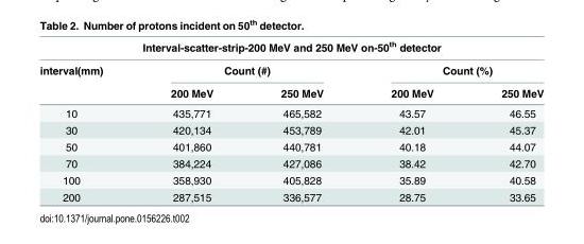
<table><thead><tr><td colspan="5">Interval-scatter-strip-200 MeV and 250 MeV on-50<sup>th</sup> detector</td></tr><tr><td rowspan="2">interval(mm)</td><td colspan="2">Count (#)</td><td colspan="2">Count (%)</td></tr><tr><td>200 MeV</td><td>250 MeV</td><td>200 MeV</td><td>250 MeV</td></tr></thead><tbody><tr><td>10</td><td>435,771</td><td>465,582</td><td>43.57</td><td>46.55</td></tr><tr><td>30</td><td>420,134</td><td>453,789</td><td>42.01</td><td>45.37</td></tr><tr><td>50</td><td>401,860</td><td>440,781</td><td>40.18</td><td>44.07</td></tr><tr><td>70</td><td>384,224</td><td>427,086</td><td>38.42</td><td>42.70</td></tr><tr><td>100</td><td>358,930</td><td>405,828</td><td>35.89</td><td>40.58</td></tr><tr><td>200</td><td>287,515</td><td>336,577</td><td>28.75</td><td>33.65</td></tr></tbody></table>